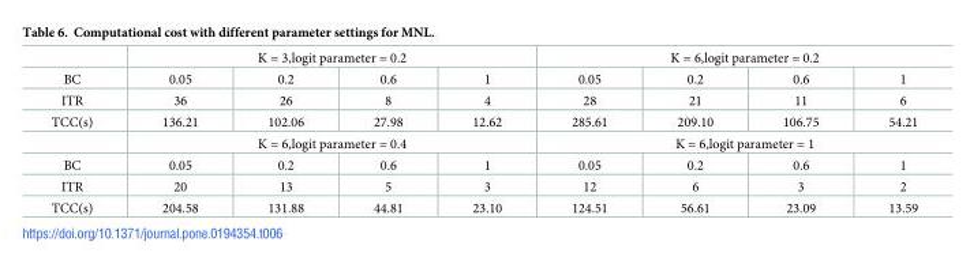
<table><thead><tr><td rowspan="2">BC</td><td colspan="4">K = 3,logit parameter = 0.2</td><td colspan="4">K = 6,logit parameter = 0.2</td></tr><tr><td>0.05</td><td>0.2</td><td>0.6</td><td>1</td><td>0.05</td><td>0.2</td><td>0.6</td><td>1</td></tr></thead><tbody><tr><td>ITR</td><td>36</td><td>26</td><td>8</td><td>4</td><td>28</td><td>21</td><td>11</td><td>6</td></tr><tr><td rowspan="2">TCC(s)</td><td>136.21</td><td>102.06</td><td>27.98</td><td>12.62</td><td>285.61</td><td>209.10</td><td>106.75</td><td>54.21</td></tr><tr><td colspan="4">K = 6,logit parameter = 0.4</td><td colspan="4">K = 6,logit parameter = 1</td></tr><tr><td>BC</td><td>0.05</td><td>0.2</td><td>0.6</td><td>1</td><td>0.05</td><td>0.2</td><td>0.6</td><td>1</td></tr><tr><td>ITR</td><td>20</td><td>13</td><td>5</td><td>3</td><td>12</td><td>6</td><td>3</td><td>2</td></tr><tr><td>TCC(s)</td><td>204.58</td><td>131.88</td><td>44.81</td><td>23.10</td><td>124.51</td><td>56.61</td><td>23.09</td><td>13.59</td></tr></tbody></table>